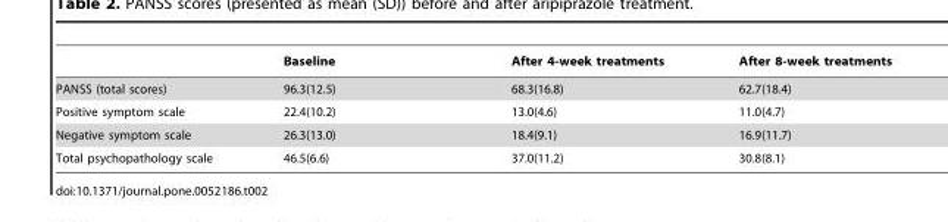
<table><thead><tr><td></td><td>Baseline</td><td>After 4-week treatments</td><td>After 8-week treatments</td></tr></thead><tbody><tr><td>PANSS (total scores)</td><td>96.3(12.5)</td><td>68.3(16.8)</td><td>62.7(18.4)</td></tr><tr><td>Positive symptom scale</td><td>22.4(10.2)</td><td>13.0(4.6)</td><td>11.0(4.7)</td></tr><tr><td>Negative symptom scale</td><td>26.3(13.0)</td><td>18.4(9.1)</td><td>16.9(11.7)</td></tr><tr><td>Total psychopathology scale</td><td>46.5(6.6)</td><td>37.0(11.2)</td><td>30.8(8.1)</td></tr></tbody></table>